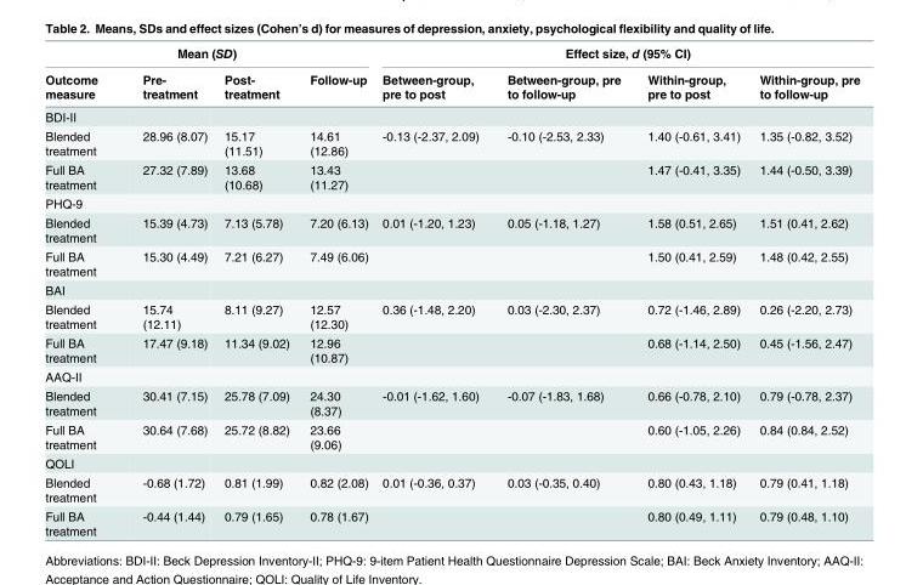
<table><thead><tr><td colspan="4">Mean (SD)</td><td colspan="4">Effect size, d (95% CI)</td></tr><tr><td>Outcome measure</td><td>Pre- treatment</td><td>Post- treatment</td><td>Follow-up</td><td>Between-group, pre to post</td><td>Between-group, pre to follow-up</td><td>Within-group, pre to post</td><td>Within-group, pre to follow-up</td></tr></thead><tbody><tr><td colspan="8">BDI-II</td></tr><tr><td>Blended treatment</td><td>28.96 (8.07)</td><td>15.17 (11.51)</td><td>14.61 (12.86)</td><td>-0.13 (-2.37, 2.09)</td><td>-0.10 (-2.53, 2.33)</td><td>1.40 (-0.61, 3.41)</td><td>1.35 (-0.82, 3.52)</td></tr><tr><td>Full BA treatment</td><td>27.32 (7.89)</td><td>13.68 (10.68)</td><td>13.43 (11.27)</td><td></td><td></td><td>1.47 (-0.41, 3.35)</td><td>1.44 (-0.50, 3.39)</td></tr><tr><td colspan="8">PHQ-9</td></tr><tr><td>Blended treatment</td><td>15.39 (4.73)</td><td>7.13 (5.78)</td><td>7.20 (6.13)</td><td>0.01 (-1.20, 1.23)</td><td>0.05 (-1.18, 1.27)</td><td>1.58 (0.51, 2.65)</td><td>1.51 (0.41, 2.62)</td></tr><tr><td>Full BA treatment</td><td>15.30 (4.49)</td><td>7.21 (6.27)</td><td>7.49 (6.06)</td><td></td><td></td><td>1.50 (0.41, 2.59)</td><td>1.48 (0.42, 2.55)</td></tr><tr><td colspan="8">BAI</td></tr><tr><td>Blended treatment</td><td>15.74 (12.11)</td><td>8.11 (9.27)</td><td>12.57 (12.30)</td><td>0.36 (-1.48, 2.20)</td><td>0.03 (-2.30, 2.37)</td><td>0.72 (-1.46, 2.89)</td><td>0.26 (-2.20, 2.73)</td></tr><tr><td>Full BA treatment</td><td>17.47 (9.18)</td><td>11.34 (9.02)</td><td>12.96 (10.87)</td><td></td><td></td><td>0.68 (-1.14, 2.50)</td><td>0.45 (-1.56, 2.47)</td></tr><tr><td colspan="8">AAQ-II</td></tr><tr><td>Blended treatment</td><td>30.41 (7.15)</td><td>25.78 (7.09)</td><td>24.30 (8.37)</td><td>-0.01 (-1.62, 1.60)</td><td>-0.07 (-1.83, 1.68)</td><td>0.66 (-0.78, 2.10)</td><td>0.79 (-0.78, 2.37)</td></tr><tr><td>Full BA treatment</td><td>30.64 (7.68)</td><td>25.72 (8.82)</td><td>23.66 (9.06)</td><td></td><td></td><td>0.60 (-1.05, 2.26)</td><td>0.84 (0.84, 2.52)</td></tr><tr><td colspan="8">QOLI</td></tr><tr><td>Blended treatment</td><td>-0.68 (1.72)</td><td>0.81 (1.99)</td><td>0.82 (2.08)</td><td>0.01 (-0.36, 0.37)</td><td>0.03 (-0.35, 0.40)</td><td>0.80 (0.43, 1.18)</td><td>0.79 (0.41, 1.18)</td></tr><tr><td>Full BA treatment</td><td>-0.44 (1.44)</td><td>0.79 (1.65)</td><td>0.78 (1.67)</td><td></td><td></td><td>0.80 (0.49, 1.11)</td><td>0.79 (0.48, 1.10)</td></tr></tbody></table>